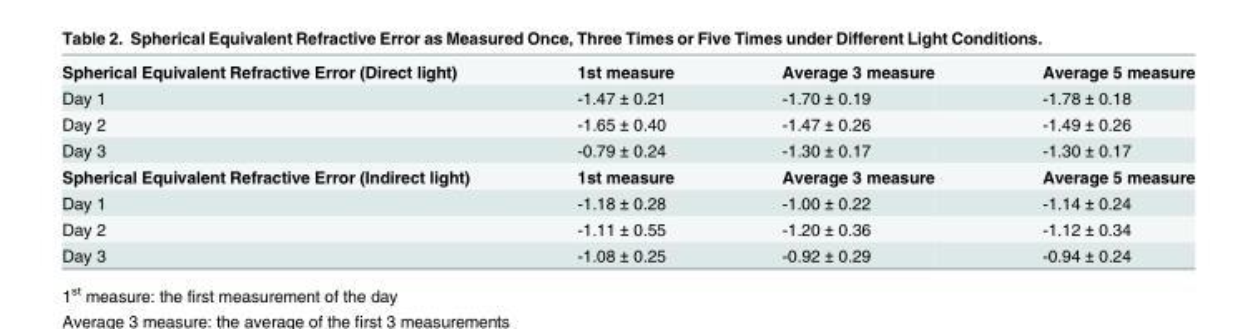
<table><tbody><tr><td>Spherical Equivalent Refractive Error (Direct light)</td><td>1st measure</td><td>Average 3 measure</td><td>Average 5 measure</td></tr><tr><td>Day 1</td><td>-1.47 ± 0.21</td><td>-1.70 ± 0.19</td><td>-1.78 ± 0.18</td></tr><tr><td>Day 2</td><td>-1.65 ± 0.40</td><td>-1.47 ± 0.26</td><td>-1.49 ± 0.26</td></tr><tr><td>Day 3</td><td>-0.79 ± 0.24</td><td>-1.30 ± 0.17</td><td>-1.30 ± 0.17</td></tr><tr><td>Spherical Equivalent Refractive Error (Indirect light)</td><td>1st measure</td><td>Average 3 measure</td><td>Average 5 measure</td></tr><tr><td>Day 1</td><td>-1.18 ± 0.28</td><td>-1.00 ± 0.22</td><td>-1.14 ± 0.24</td></tr><tr><td>Day 2</td><td>-1.11 ± 0.55</td><td>-1.20 ± 0.36</td><td>-1.12 ± 0.34</td></tr><tr><td>Day 3</td><td>-1.08 ± 0.25</td><td>-0.92 ± 0.29</td><td>-0.94 ± 0.24</td></tr></tbody></table>